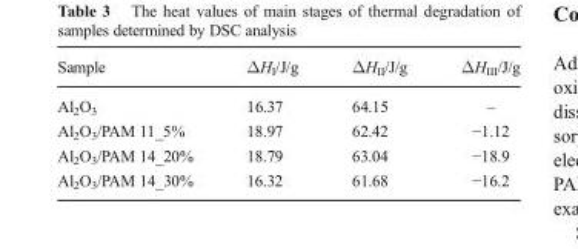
<table><thead><tr><td>Sample</td><td>ΔH<sub>I</sub>/J/g</td><td>ΔH<sub>II</sub>/J/g</td><td>ΔH<sub>III</sub>/J/g</td></tr></thead><tbody><tr><td>Al<sub>2</sub>O<sub>3</sub></td><td>16.37</td><td>64.15</td><td>–</td></tr><tr><td>Al<sub>2</sub>O<sub>3</sub>/PAM 11_5%</td><td>18.97</td><td>62.42</td><td>−1.12</td></tr><tr><td>Al<sub>2</sub>O<sub>3</sub>/PAM 14_20%</td><td>18.79</td><td>63.04</td><td>−18.9</td></tr><tr><td>Al<sub>2</sub>O<sub>3</sub>/PAM 14_30%</td><td>16.32</td><td>61.68</td><td>−16.2</td></tr></tbody></table>